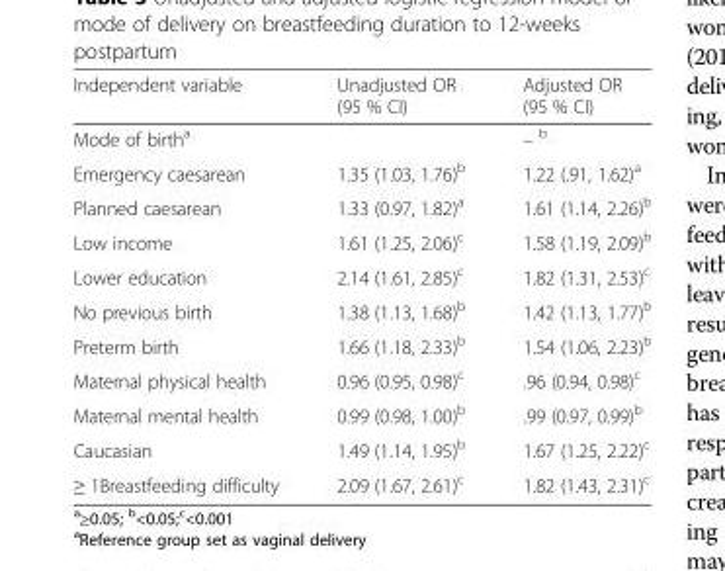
<table><thead><tr><td>Independent variable</td><td>Unadjusted OR (95 % CI)</td><td>Adjusted OR (95 % CI)</td></tr></thead><tbody><tr><td>Mode of birth<sup>a</sup></td><td></td><td>– b</td></tr><tr><td>Emergency caesarean</td><td>1.35 (1.03, 1.76)<sup>b</sup></td><td>1.22 (.91, 1.62)<sup>a</sup></td></tr><tr><td>Planned caesarean</td><td>1.33 (0.97, 1.82)<sup>a</sup></td><td>1.61 (1.14, 2.26)<sup>b</sup></td></tr><tr><td>Low income</td><td>1.61 (1.25, 2.06)<sup>c</sup></td><td>1.58 (1.19, 2.09)<sup>b</sup></td></tr><tr><td>Lower education</td><td>2.14 (1.61, 2.85)<sup>c</sup></td><td>1.82 (1.31, 2.53)<sup>c</sup></td></tr><tr><td>No previous birth</td><td>1.38 (1.13, 1.68)<sup>b</sup></td><td>1.42 (1.13, 1.77)<sup>b</sup></td></tr><tr><td>Preterm birth</td><td>1.66 (1.18, 2.33)<sup>b</sup></td><td>1.54 (1.06, 2.23)<sup>b</sup></td></tr><tr><td>Maternal physical health</td><td>0.96 (0.95, 0.98)<sup>c</sup></td><td>.96 (0.94, 0.98)<sup>c</sup></td></tr><tr><td>Maternal mental health</td><td>0.99 (0.98, 1.00)<sup>b</sup></td><td>.99 (0.97, 0.99)<sup>b</sup></td></tr><tr><td>Caucasian</td><td>1.49 (1.14, 1.95)<sup>b</sup></td><td>1.67 (1.25, 2.22)<sup>c</sup></td></tr><tr><td>≥ 1Breastfeeding difficulty</td><td>2.09 (1.67, 2.61)<sup>c</sup></td><td>1.82 (1.43, 2.31)<sup>c</sup></td></tr></tbody></table>